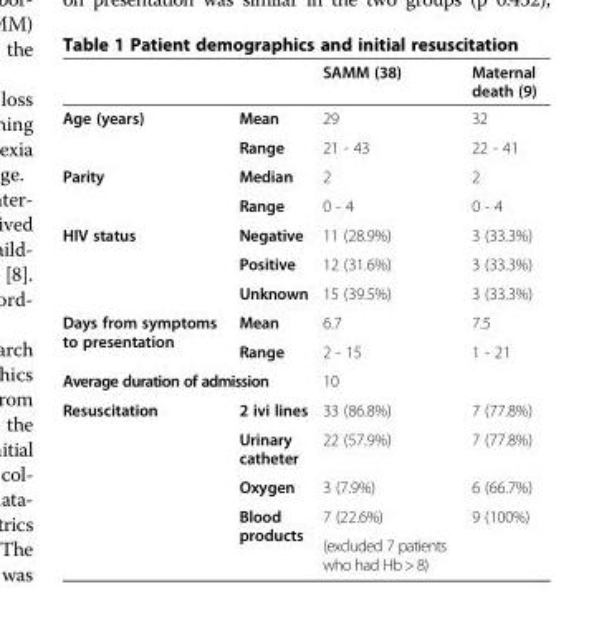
<table><thead><tr><td></td><td></td><td>SAMM (38)</td><td>Maternal death (9)</td></tr></thead><tbody><tr><td rowspan="2">Age (years)</td><td>Mean</td><td>29</td><td>32</td></tr><tr><td>Range</td><td>21 - 43</td><td>22 - 41</td></tr><tr><td rowspan="2">Parity</td><td>Median</td><td>2</td><td>2</td></tr><tr><td>Range</td><td>0 - 4</td><td>0 - 4</td></tr><tr><td rowspan="3">HIV status</td><td>Negative</td><td>11 (28.9%)</td><td>3 (33.3%)</td></tr><tr><td>Positive</td><td>12 (31.6%)</td><td>3 (33.3%)</td></tr><tr><td>Unknown</td><td>15 (39.5%)</td><td>3 (33.3%)</td></tr><tr><td rowspan="2">Days from symptoms to presentation</td><td>Mean</td><td>6.7</td><td>7.5</td></tr><tr><td>Range</td><td>2 - 15</td><td>1 - 21</td></tr><tr><td colspan="2">Average duration of admission</td><td>10</td><td></td></tr><tr><td rowspan="5">Resuscitation</td><td>2 ivi lines</td><td>33 (86.8%)</td><td>7 (77.8%)</td></tr><tr><td>Urinary catheter</td><td>22 (57.9%)</td><td>7 (77.8%)</td></tr><tr><td>Oxygen</td><td>3 (7.9%)</td><td>6 (66.7%)</td></tr><tr><td rowspan="2">Blood products</td><td>7 (22.6%)</td><td>9 (100%)</td></tr><tr><td>(excluded 7 patients who had Hb &gt; 8)</td><td></td></tr></tbody></table>